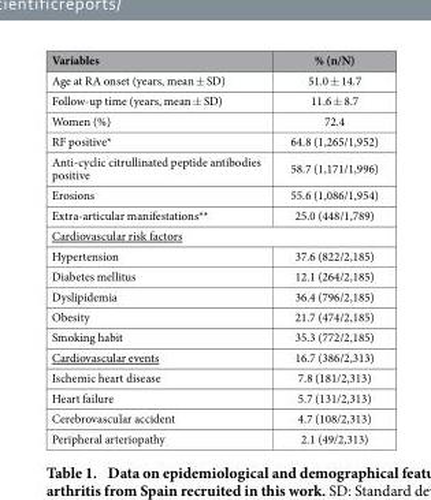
<table><thead><tr><td>Variables</td><td>% (n/N)</td></tr></thead><tbody><tr><td>Age at RA onset (years, mean ± SD)</td><td>51.0 ± 14.7</td></tr><tr><td>Follow-up time (years, mean ± SD)</td><td>11.6 ± 8.7</td></tr><tr><td>Women (%)</td><td>72.4</td></tr><tr><td>RF positive*</td><td>64.8 (1,265/1,952)</td></tr><tr><td>Anti-cyclic citrullinated peptide antibodies positive</td><td>58.7 (1,171/1,996)</td></tr><tr><td>Erosions</td><td>55.6 (1,086/1,954)</td></tr><tr><td>Extra-articular manifestations**</td><td>25.0 (448/1,789)</td></tr><tr><td colspan="2">Cardiovascular risk factors</td></tr><tr><td>Hypertension</td><td>37.6 (822/2,185)</td></tr><tr><td>Diabetes mellitus</td><td>12.1 (264/2,185)</td></tr><tr><td>Dyslipidemia</td><td>36.4 (796/2,185)</td></tr><tr><td>Obesity</td><td>21.7 (474/2,185)</td></tr><tr><td>Smoking habit</td><td>35.3 (772/2,185)</td></tr><tr><td>Cardiovascular events</td><td>16.7 (386/2,313)</td></tr><tr><td>Ischemic heart disease</td><td>7.8 (181/2,313)</td></tr><tr><td>Heart failure</td><td>5.7 (131/2,313)</td></tr><tr><td>Cerebrovascular accident</td><td>4.7 (108/2,313)</td></tr><tr><td>Peripheral arteriopathy</td><td>2.1 (49/2,313)</td></tr></tbody></table>